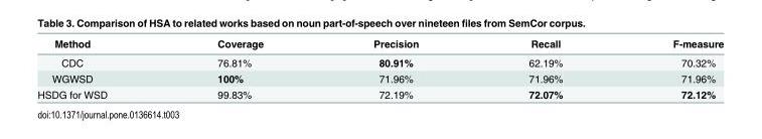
<table><thead><tr><td>Method</td><td>Coverage</td><td>Precision</td><td>Recall</td><td>F-measure</td></tr></thead><tbody><tr><td>CDC</td><td>76.81%</td><td>80.91%</td><td>62.19%</td><td>70.32%</td></tr><tr><td>WGWSD</td><td>100%</td><td>71.96%</td><td>71.96%</td><td>71.96%</td></tr><tr><td>HSDG for WSD</td><td>99.83%</td><td>72.19%</td><td>72.07%</td><td>72.12%</td></tr></tbody></table>